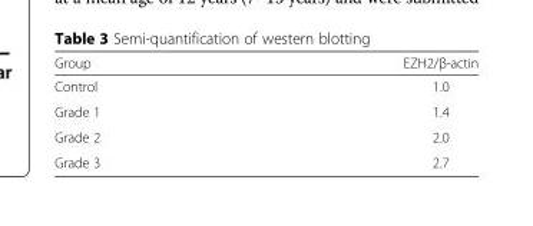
<table><thead><tr><td>Group</td><td>EZH2/β-actin</td></tr></thead><tbody><tr><td>Control</td><td>1.0</td></tr><tr><td>Grade 1</td><td>1.4</td></tr><tr><td>Grade 2</td><td>2.0</td></tr><tr><td>Grade 3</td><td>2.7</td></tr></tbody></table>